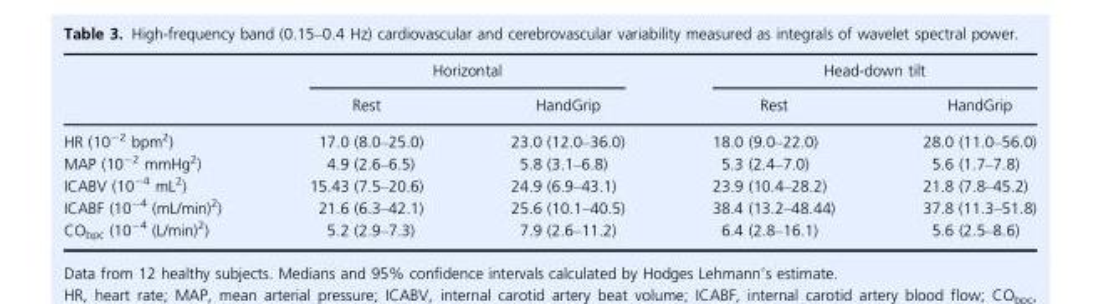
<table><thead><tr><td rowspan="2"></td><td colspan="2">Horizontal</td><td colspan="2">Head-down tilt</td></tr><tr><td>Rest</td><td>HandGrip</td><td>Rest</td><td>HandGrip</td></tr></thead><tbody><tr><td>HR (10<sup>−2</sup> bpm<sup>2</sup>)</td><td>17.0 (8.0–25.0)</td><td>23.0 (12.0–36.0)</td><td>18.0 (9.0–22.0)</td><td>28.0 (11.0–56.0)</td></tr><tr><td>MAP (10<sup>−2</sup> mmHg<sup>2</sup>)</td><td>4.9 (2.6–6.5)</td><td>5.8 (3.1–6.8)</td><td>5.3 (2.4–7.0)</td><td>5.6 (1.7–7.8)</td></tr><tr><td>ICABV (10<sup>−4</sup> mL<sup>2</sup>)</td><td>15.43 (7.5–20.6)</td><td>24.9 (6.9–43.1)</td><td>23.9 (10.4–28.2)</td><td>21.8 (7.8–45.2)</td></tr><tr><td>ICABF (10<sup>−4</sup> (mL/min)<sup>2</sup>)</td><td>21.6 (6.3–42.1)</td><td>25.6 (10.1–40.5)</td><td>38.4 (13.2–48.44)</td><td>37.8 (11.3–51.8)</td></tr><tr><td>CO<sub>bpc</sub> (10<sup>−4</sup> (L/min)<sup>2</sup>)</td><td>5.2 (2.9–7.3)</td><td>7.9 (2.6–11.2)</td><td>6.4 (2.8–16.1)</td><td>5.6 (2.5–8.6)</td></tr></tbody></table>